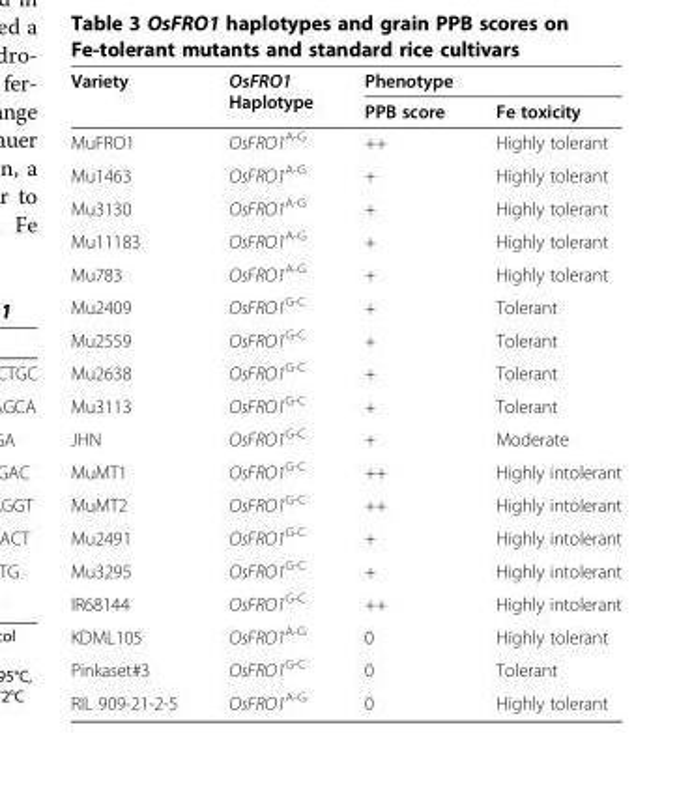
<table><thead><tr><td rowspan="2">Variety</td><td rowspan="2">OsFRO1 Haplotype</td><td colspan="2">Phenotype</td></tr><tr><td>PPB score</td><td>Fe toxicity</td></tr></thead><tbody><tr><td>MuFRO1</td><td>OsFRO1<sup>A-G</sup></td><td>++</td><td>Highly tolerant</td></tr><tr><td>Mu1463</td><td>OsFRO1<sup>A-G</sup></td><td>+</td><td>Highly tolerant</td></tr><tr><td>Mu3130</td><td>OsFRO1<sup>A-G</sup></td><td>+</td><td>Highly tolerant</td></tr><tr><td>Mu11183</td><td>OsFRO1<sup>A-G</sup></td><td>+</td><td>Highly tolerant</td></tr><tr><td>Mu783</td><td>OsFRO1<sup>A-G</sup></td><td>+</td><td>Highly tolerant</td></tr><tr><td>Mu2409</td><td>OsFRO1<sup>G-C</sup></td><td>+</td><td>Tolerant</td></tr><tr><td>Mu2559</td><td>OsFRO1<sup>G-C</sup></td><td>+</td><td>Tolerant</td></tr><tr><td>Mu2638</td><td>OsFRO1<sup>G-C</sup></td><td>+</td><td>Tolerant</td></tr><tr><td>Mu3113</td><td>OsFRO1<sup>G-C</sup></td><td>+</td><td>Tolerant</td></tr><tr><td>JHN</td><td>OsFRO1<sup>G-C</sup></td><td>+</td><td>Moderate</td></tr><tr><td>MuMT1</td><td>OsFRO1<sup>G-C</sup></td><td>++</td><td>Highly intolerant</td></tr><tr><td>MuMT2</td><td>OsFRO1<sup>G-C</sup></td><td>++</td><td>Highly intolerant</td></tr><tr><td>Mu2491</td><td>OsFRO1<sup>G-C</sup></td><td>+</td><td>Highly intolerant</td></tr><tr><td>Mu3295</td><td>OsFRO1<sup>G-C</sup></td><td>+</td><td>Highly intolerant</td></tr><tr><td>IR68144</td><td>OsFRO1<sup>G-C</sup></td><td>++</td><td>Highly intolerant</td></tr><tr><td>KDML105</td><td>OsFRO1<sup>A-G</sup></td><td>0</td><td>Highly tolerant</td></tr><tr><td>Pinkaset#3</td><td>OsFRO1<sup>G-C</sup></td><td>0</td><td>Tolerant</td></tr><tr><td>RIL 909-21-2-5</td><td>OsFRO1<sup>A-G</sup></td><td>0</td><td>Highly tolerant</td></tr></tbody></table>